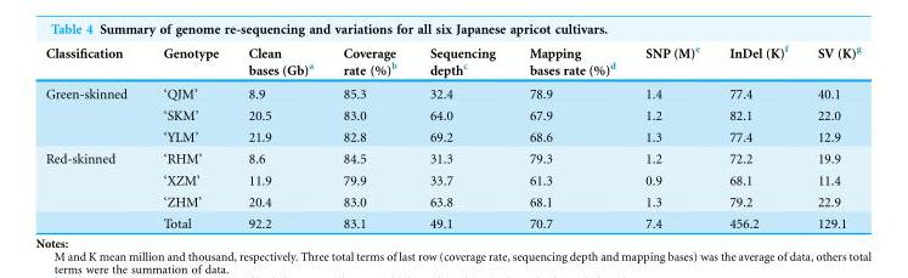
<table><thead><tr><td>Classification</td><td>Genotype</td><td>Clean bases (Gb)<sup>a</sup></td><td>Coverage rate (%)<sup>b</sup></td><td>Sequencing depth<sup>c</sup></td><td>Mapping bases rate (%)<sup>d</sup></td><td>SNP (M)<sup>e</sup></td><td>InDel (K)<sup>f</sup></td><td>SV (K)<sup>g</sup></td></tr></thead><tbody><tr><td rowspan="3">Green-skinned</td><td>‘QJM’</td><td>8.9</td><td>85.3</td><td>32.4</td><td>78.9</td><td>1.4</td><td>77.4</td><td>40.1</td></tr><tr><td>‘SKM’</td><td>20.5</td><td>83.0</td><td>64.0</td><td>67.9</td><td>1.2</td><td>82.1</td><td>22.0</td></tr><tr><td>‘YLM’</td><td>21.9</td><td>82.8</td><td>69.2</td><td>68.6</td><td>1.3</td><td>77.4</td><td>12.9</td></tr><tr><td rowspan="4">Red-skinned</td><td>‘RHM’</td><td>8.6</td><td>84.5</td><td>31.3</td><td>79.3</td><td>1.2</td><td>72.2</td><td>19.9</td></tr><tr><td>‘XZM’</td><td>11.9</td><td>79.9</td><td>33.7</td><td>61.3</td><td>0.9</td><td>68.1</td><td>11.4</td></tr><tr><td>‘ZHM’</td><td>20.4</td><td>83.0</td><td>63.8</td><td>68.1</td><td>1.3</td><td>79.2</td><td>22.9</td></tr><tr><td>Total</td><td>92.2</td><td>83.1</td><td>49.1</td><td>70.7</td><td>7.4</td><td>456.2</td><td>129.1</td></tr></tbody></table>